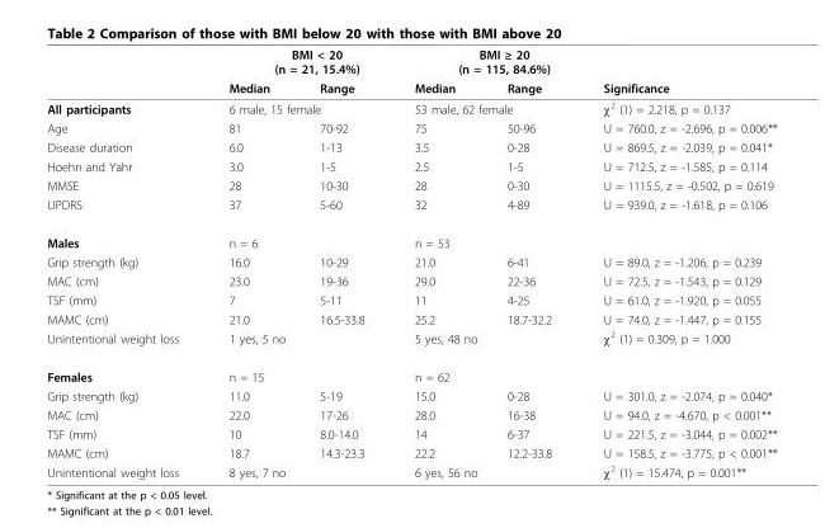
<table><thead><tr><td rowspan="2"></td><td colspan="2">BMI &lt; 20 (n = 21, 15.4%)</td><td colspan="2">BMI ≥ 20 (n = 115, 84.6%)</td><td rowspan="2">Significance</td></tr><tr><td>Median</td><td>Range</td><td>Median</td><td>Range</td></tr></thead><tbody><tr><td>All participants</td><td colspan="2">6 male, 15 female</td><td colspan="2">53 male, 62 female</td><td>χ<sup>2</sup> (1) = 2.218, p = 0.137</td></tr><tr><td>Age</td><td>81</td><td>70-92</td><td>75</td><td>50-96</td><td>U = 760.0, z = -2.696, p = 0.006**</td></tr><tr><td>Disease duration</td><td>6.0</td><td>1-13</td><td>3.5</td><td>0-28</td><td>U = 869.5, z = -2.039, p = 0.041*</td></tr><tr><td>Hoehn and Yahr</td><td>3.0</td><td>1-5</td><td>2.5</td><td>1-5</td><td>U = 712.5, z = -1.585, p = 0.114</td></tr><tr><td>MMSE</td><td>28</td><td>10-30</td><td>28</td><td>0-30</td><td>U = 1115.5, z = -0.502, p = 0.619</td></tr><tr><td>UPDRS</td><td>37</td><td>5-60</td><td>32</td><td>4-89</td><td>U = 939.0, z = -1.618, p = 0.106</td></tr><tr><td>Males</td><td>n = 6</td><td></td><td>n = 53</td><td></td><td></td></tr><tr><td>Grip strength (kg)</td><td>16.0</td><td>10-29</td><td>21.0</td><td>6-41</td><td>U = 89.0, z = -1.206, p = 0.239</td></tr><tr><td>MAC (cm)</td><td>23.0</td><td>19-36</td><td>29.0</td><td>22-36</td><td>U = 72.5, z = -1.543, p = 0.129</td></tr><tr><td>TSF (mm)</td><td>7</td><td>5-11</td><td>11</td><td>4-25</td><td>U = 61.0, z = -1.920, p = 0.055</td></tr><tr><td>MAMC (cm)</td><td>21.0</td><td>16.5-33.8</td><td>25.2</td><td>18.7-32.2</td><td>U = 74.0, z = -1.447, p = 0.155</td></tr><tr><td>Unintentional weight loss</td><td colspan="2">1 yes, 5 no</td><td colspan="2">5 yes, 48 no</td><td>χ<sup>2</sup> (1) = 0.309, p = 1.000</td></tr><tr><td>Females</td><td>n = 15</td><td></td><td>n = 62</td><td></td><td></td></tr><tr><td>Grip strength (kg)</td><td>11.0</td><td>5-19</td><td>15.0</td><td>0-28</td><td>U = 301.0, z = -2.074, p = 0.040*</td></tr><tr><td>MAC (cm)</td><td>22.0</td><td>17-26</td><td>28.0</td><td>16-38</td><td>U = 94.0, z = -4.670, p &lt; 0.001**</td></tr><tr><td>TSF (mm)</td><td>10</td><td>8.0-14.0</td><td>14</td><td>6-37</td><td>U = 221.5, z = -3.044, p = 0.002**</td></tr><tr><td>MAMC (cm)</td><td>18.7</td><td>14.3-23.3</td><td>22.2</td><td>12.2-33.8</td><td>U = 158.5, z = -3.775, p &lt; 0.001**</td></tr><tr><td>Unintentional weight loss</td><td colspan="2">8 yes, 7 no</td><td colspan="2">6 yes, 56 no</td><td>χ<sup>2</sup> (1) = 15.474, p = 0.001**</td></tr></tbody></table>